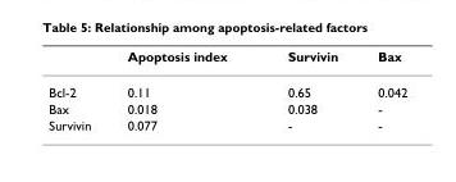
<table><thead><tr><td></td><td>Apoptosis index</td><td>Survivin</td><td>Bax</td></tr></thead><tbody><tr><td>Bcl-2</td><td>0.11</td><td>0.65</td><td>0.042</td></tr><tr><td>Bax</td><td>0.018</td><td>0.038</td><td>-</td></tr><tr><td>Survivin</td><td>0.077</td><td>-</td><td>-</td></tr></tbody></table>